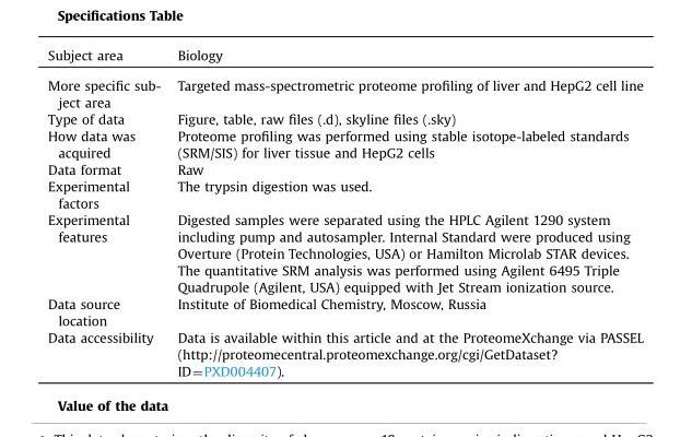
<table><thead><tr><td>Subject area</td><td>Biology</td></tr></thead><tbody><tr><td>More specific sub- ject area</td><td>Targeted mass-spectrometric proteome profiling of liver and HepG2 cell line</td></tr><tr><td>Type of data</td><td>Figure, table, raw files (.d), skyline files (.sky)</td></tr><tr><td>How data was acquired</td><td>Proteome profiling was performed using stable isotope-labeled standards (SRM/SIS) for liver tissue and HepG2 cells</td></tr><tr><td>Data format</td><td>Raw</td></tr><tr><td>Experimental factors</td><td>The trypsin digestion was used.</td></tr><tr><td>Experimental features</td><td>Digested samples were separated using the HPLC Agilent 1290 system including pump and autosampler. Internal Standard were produced using Overture (Protein Technologies, USA) or Hamilton Microlab STAR devices. The quantitative SRM analysis was performed using Agilent 6495 Triple Quadrupole (Agilent, USA) equipped with Jet Stream ionization source.</td></tr><tr><td>Data source location</td><td>Institute of Biomedical Chemistry, Moscow, Russia</td></tr><tr><td>Data accessibility</td><td>Data is available within this article and at the ProteomeXchange via PASSEL (http://proteomecentral.proteomexchange.org/cgi/GetDataset? ID=PXD004407).</td></tr></tbody></table>